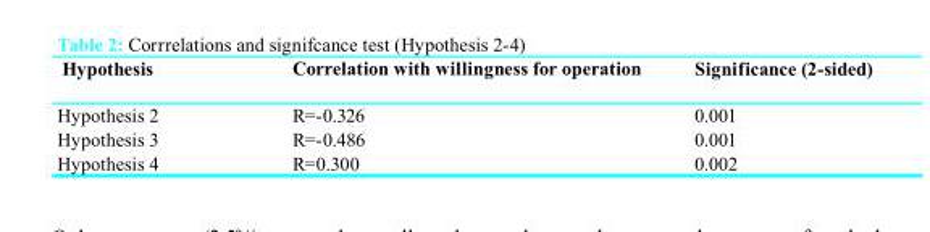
<table><thead><tr><td>Hypothesis</td><td>Correlation with willingness for operation</td><td>Significance (2-sided)</td></tr></thead><tbody><tr><td>Hypothesis 2</td><td>R=-0.326</td><td>0.001</td></tr><tr><td>Hypothesis 3</td><td>R=-0.486</td><td>0.001</td></tr><tr><td>Hypothesis 4</td><td>R=0.300</td><td>0.002</td></tr></tbody></table>